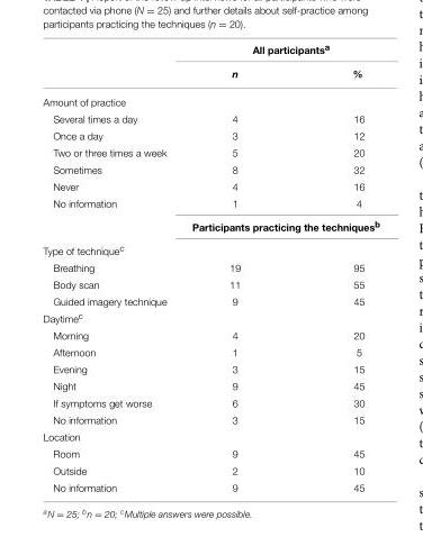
<table><thead><tr><td rowspan="2"></td><td colspan="2">All participants<sup>a</sup></td></tr><tr><td>n</td><td>%</td></tr></thead><tbody><tr><td colspan="3">Amount of practice</td></tr><tr><td>Several times a day</td><td>4</td><td>16</td></tr><tr><td>Once a day</td><td>3</td><td>12</td></tr><tr><td>Two or three times a week</td><td>5</td><td>20</td></tr><tr><td>Sometimes</td><td>8</td><td>32</td></tr><tr><td>Never</td><td>4</td><td>16</td></tr><tr><td rowspan="2">No information</td><td>1</td><td>4</td></tr><tr><td colspan="2">Participants practicing the techniques<sup>b</sup></td></tr><tr><td colspan="3">Type of technique<sup>c</sup></td></tr><tr><td>Breathing</td><td>19</td><td>95</td></tr><tr><td>Body scan</td><td>11</td><td>55</td></tr><tr><td>Guided imagery technique</td><td>9</td><td>45</td></tr><tr><td colspan="3">Daytime<sup>c</sup></td></tr><tr><td>Morning</td><td>4</td><td>20</td></tr><tr><td>Afternoon</td><td>1</td><td>5</td></tr><tr><td>Evening</td><td>3</td><td>15</td></tr><tr><td>Night</td><td>9</td><td>45</td></tr><tr><td>If symptoms get worse</td><td>6</td><td>30</td></tr><tr><td>No information</td><td>3</td><td>15</td></tr><tr><td colspan="3">Location</td></tr><tr><td>Room</td><td>9</td><td>45</td></tr><tr><td>Outside</td><td>2</td><td>10</td></tr><tr><td>No information</td><td>9</td><td>45</td></tr></tbody></table>